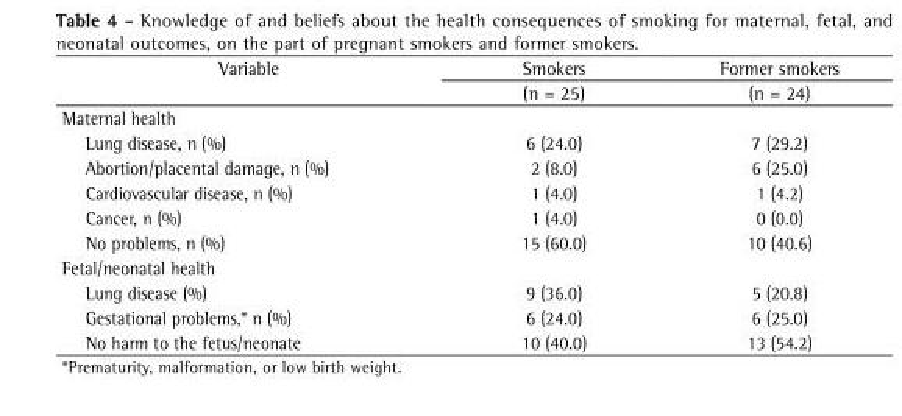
<table><thead><tr><td rowspan="2">Variable</td><td rowspan="2">Smokers (n = 25)</td><td rowspan="2">Former smokers (n = 24)</td></tr><tr></tr></thead><tbody><tr><td colspan="3">Maternal health</td></tr><tr><td>Lung disease, n (%)</td><td>6 (24.0)</td><td>7 (29.2)</td></tr><tr><td>Abortion/placental damage, n (%)</td><td>2 (8.0)</td><td>6 (25.0)</td></tr><tr><td>Cardiovascular disease, n (%)</td><td>1 (4.0)</td><td>1 (4.2)</td></tr><tr><td>Cancer, n (%)</td><td>1 (4.0)</td><td>0 (0.0)</td></tr><tr><td>No problems, n (%)</td><td>15 (60.0)</td><td>10 (40.6)</td></tr><tr><td colspan="3">Fetal/neonatal health</td></tr><tr><td>Lung disease (%)</td><td>9 (36.0)</td><td>5 (20.8)</td></tr><tr><td>Gestational problems,* n (%)</td><td>6 (24.0)</td><td>6 (25.0)</td></tr><tr><td>No harm to the fetus/neonate</td><td>10 (40.0)</td><td>13 (54.2)</td></tr></tbody></table>